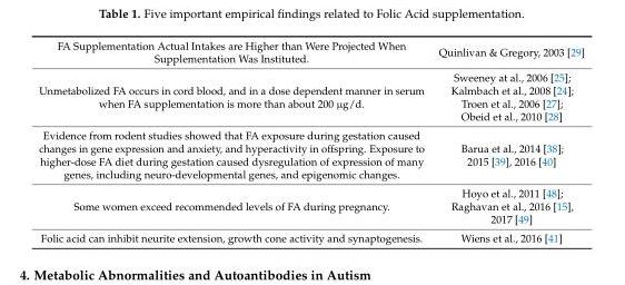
<table><tbody><tr><td>FA Supplementation Actual Intakes are Higher than Were Projected When Supplementation Was Instituted.</td><td>Quinlivan &amp; Gregory, 2003 [29]</td></tr><tr><td>Unmetabolized FA occurs in cord blood, and in a dose dependent manner in serum when FA supplementation is more than about 200 µg/d.</td><td>Sweeney at al., 2006 [25]; Kalmbach et al., 2008 [24]; Troen et al., 2006 [27]; Obeid et al., 2010 [28]</td></tr><tr><td>Evidence from rodent studies showed that FA exposure during gestation caused changes in gene expression and anxiety, and hyperactivity in offspring. Exposure to higher-dose FA diet during gestation caused dysregulation of expression of many genes, including neuro-developmental genes, and epigenomic changes.</td><td>Barua et al., 2014 [38]; 2015 [39], 2016 [40]</td></tr><tr><td>Some women exceed recommended levels of FA during pregnancy.</td><td>Hoyo et al., 2011 [48]; Raghavan et al., 2016 [15], 2017 [49]</td></tr><tr><td>Folic acid can inhibit neurite extension, growth cone activity and synaptogenesis.</td><td>Wiens et al., 2016 [41]</td></tr></tbody></table>